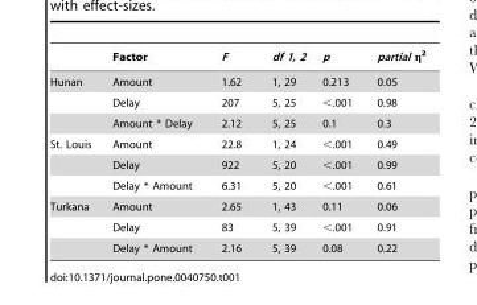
<table><thead><tr><td></td><td>Factor</td><td>F</td><td>df 1, 2</td><td>p</td><td>partial η<sup>2</sup></td></tr></thead><tbody><tr><td rowspan="3">Hunan</td><td>Amount</td><td>1.62</td><td>1, 29</td><td>0.213</td><td>0.05</td></tr><tr><td>Delay</td><td>207</td><td>5, 25</td><td>&lt;.001</td><td>0.98</td></tr><tr><td>Amount * Delay</td><td>2.12</td><td>5, 25</td><td>0.1</td><td>0.3</td></tr><tr><td rowspan="3">St. Louis</td><td>Amount</td><td>22.8</td><td>1, 24</td><td>&lt;.001</td><td>0.49</td></tr><tr><td>Delay</td><td>922</td><td>5, 20</td><td>&lt;.001</td><td>0.99</td></tr><tr><td>Delay * Amount</td><td>6.31</td><td>5, 20</td><td>&lt;.001</td><td>0.61</td></tr><tr><td rowspan="3">Turkana</td><td>Amount</td><td>2.65</td><td>1, 43</td><td>0.11</td><td>0.06</td></tr><tr><td>Delay</td><td>83</td><td>5, 39</td><td>&lt;.001</td><td>0.91</td></tr><tr><td>Delay * Amount</td><td>2.16</td><td>5, 39</td><td>0.08</td><td>0.22</td></tr></tbody></table>